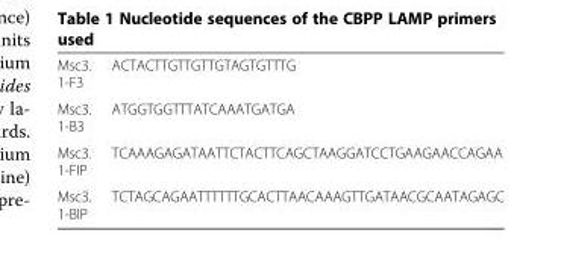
<table><tbody><tr><td>Msc3. 1-F3</td><td>ACTACTTGTTGTTGTAGTGTTTG</td></tr><tr><td>Msc3. 1-B3</td><td>ATGGTGGTTTATCAAATGATGA</td></tr><tr><td>Msc3. 1-FIP</td><td>TCAAAGAGATAATTCTACTTCAGCTAAGGATCCTGAAGAACCAGAA</td></tr><tr><td>Msc3. 1-BIP</td><td>TCTAGCAGAATTTTTTGCACTTAACAAAGTTGATAACGCAATAGAGC</td></tr></tbody></table>